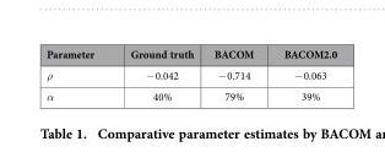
<table><thead><tr><td>Parameter</td><td>Ground truth</td><td>BACOM</td><td>BACOM2.0</td></tr></thead><tbody><tr><td>ρ</td><td>− 0.042</td><td>− 0.714</td><td>− 0.063</td></tr><tr><td>α</td><td>40%</td><td>79%</td><td>39%</td></tr></tbody></table>